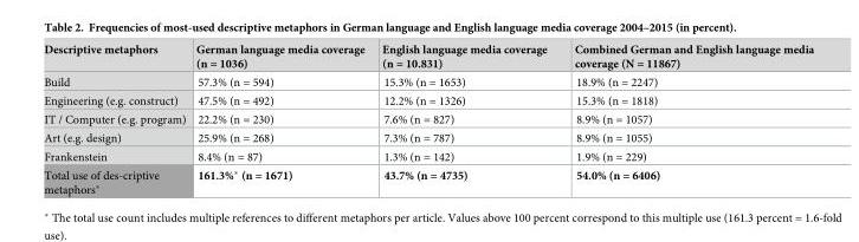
<table><thead><tr><td>Descriptive metaphors</td><td>German language media coverage (n = 1036)</td><td>English language media coverage (n = 10.831)</td><td>Combined German and English language media coverage (N = 11867)</td></tr></thead><tbody><tr><td>Build</td><td>57.3% (n = 594)</td><td>15.3% (n = 1653)</td><td>18.9% (n = 2247)</td></tr><tr><td>Engineering (e.g. construct)</td><td>47.5% (n = 492)</td><td>12.2% (n = 1326)</td><td>15.3% (n = 1818)</td></tr><tr><td>IT / Computer (e.g. program)</td><td>22.2% (n = 230)</td><td>7.6% (n = 827)</td><td>8.9% (n = 1057)</td></tr><tr><td>Art (e.g. design)</td><td>25.9% (n = 268)</td><td>7.3% (n = 787)</td><td>8.9% (n = 1055)</td></tr><tr><td>Frankenstein</td><td>8.4% (n = 87)</td><td>1.3% (n = 142)</td><td>1.9% (n = 229)</td></tr><tr><td>Total use of des-criptive metaphors*</td><td>161.3%* (n = 1671)</td><td>43.7% (n = 4735)</td><td>54.0% (n = 6406)</td></tr></tbody></table>